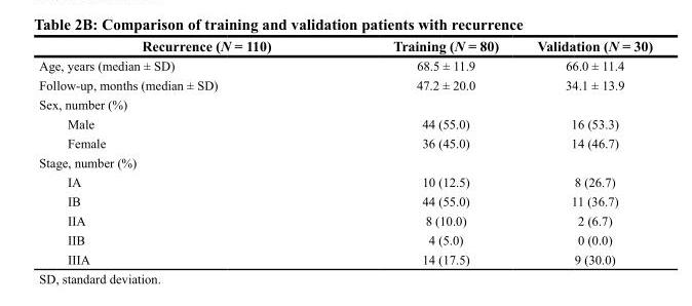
<table><thead><tr><td>Recurrence (N = 110)</td><td>Training (N = 80)</td><td>Validation (N = 30)</td></tr></thead><tbody><tr><td>Age, years (median ± SD)</td><td>68.5 ± 11.9</td><td>66.0 ± 11.4</td></tr><tr><td>Follow-up, months (median ± SD)</td><td>47.2 ± 20.0</td><td>34.1 ± 13.9</td></tr><tr><td colspan="3">Sex, number (%)</td></tr><tr><td>Male</td><td>44 (55.0)</td><td>16 (53.3)</td></tr><tr><td>Female</td><td>36 (45.0)</td><td>14 (46.7)</td></tr><tr><td colspan="3">Stage, number (%)</td></tr><tr><td>IA</td><td>10 (12.5)</td><td>8 (26.7)</td></tr><tr><td>IB</td><td>44 (55.0)</td><td>11 (36.7)</td></tr><tr><td>IIA</td><td>8 (10.0)</td><td>2 (6.7)</td></tr><tr><td>IIB</td><td>4 (5.0)</td><td>0 (0.0)</td></tr><tr><td>IIIA</td><td>14 (17.5)</td><td>9 (30.0)</td></tr></tbody></table>